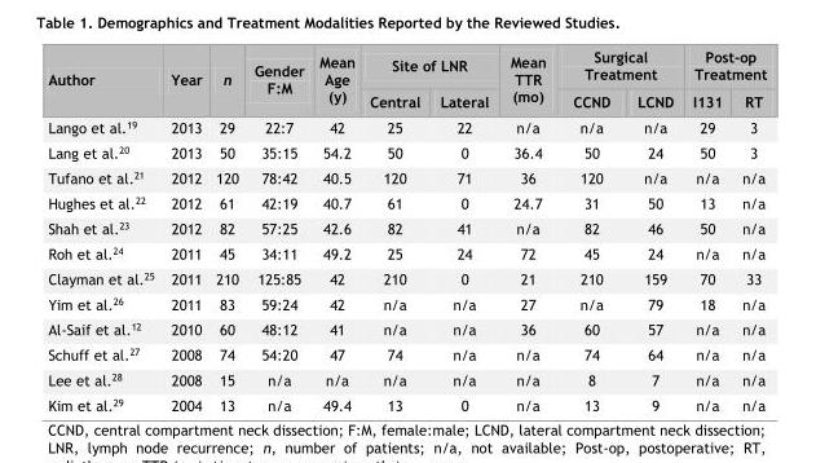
<table><thead><tr><td rowspan="2">Author</td><td rowspan="2">Year</td><td rowspan="2">n</td><td rowspan="2">Gender F:M</td><td rowspan="2">Mean Age (y)</td><td colspan="2">Site of LNR</td><td rowspan="2">Mean TTR (mo)</td><td colspan="2">Surgical Treatment</td><td colspan="2">Post-op Treatment</td></tr><tr><td>Central</td><td>Lateral</td><td>CCND</td><td>LCND</td><td>I131</td><td>RT</td></tr></thead><tbody><tr><td>Lango et al.<sup>19</sup></td><td>2013</td><td>29</td><td>22:7</td><td>42</td><td>25</td><td>22</td><td>n/a</td><td>n/a</td><td>n/a</td><td>29</td><td>3</td></tr><tr><td>Lang et al.<sup>20</sup></td><td>2013</td><td>50</td><td>35:15</td><td>54.2</td><td>50</td><td>0</td><td>36.4</td><td>50</td><td>24</td><td>50</td><td>3</td></tr><tr><td>Tufano et al.<sup>21</sup></td><td>2012</td><td>120</td><td>78:42</td><td>40.5</td><td>120</td><td>71</td><td>36</td><td>120</td><td>n/a</td><td>n/a</td><td>n/a</td></tr><tr><td>Hughes et al.<sup>22</sup></td><td>2012</td><td>61</td><td>42:19</td><td>40.7</td><td>61</td><td>0</td><td>24.7</td><td>31</td><td>50</td><td>13</td><td>n/a</td></tr><tr><td>Shah et al.<sup>23</sup></td><td>2012</td><td>82</td><td>57:25</td><td>42.6</td><td>82</td><td>41</td><td>n/a</td><td>82</td><td>46</td><td>50</td><td>n/a</td></tr><tr><td>Roh et al.<sup>24</sup></td><td>2011</td><td>45</td><td>34:11</td><td>49.2</td><td>25</td><td>24</td><td>72</td><td>45</td><td>24</td><td>n/a</td><td>n/a</td></tr><tr><td>Clayman et al.<sup>25</sup></td><td>2011</td><td>210</td><td>125:85</td><td>42</td><td>210</td><td>0</td><td>21</td><td>210</td><td>159</td><td>70</td><td>33</td></tr><tr><td>Yim et al.<sup>26</sup></td><td>2011</td><td>83</td><td>59:24</td><td>42</td><td>n/a</td><td>n/a</td><td>27</td><td>n/a</td><td>79</td><td>18</td><td>n/a</td></tr><tr><td>Al-Saif et al.<sup>12</sup></td><td>2010</td><td>60</td><td>48:12</td><td>41</td><td>n/a</td><td>n/a</td><td>36</td><td>60</td><td>57</td><td>n/a</td><td>n/a</td></tr><tr><td>Schuff et al.<sup>27</sup></td><td>2008</td><td>74</td><td>54:20</td><td>47</td><td>74</td><td>n/a</td><td>n/a</td><td>74</td><td>64</td><td>n/a</td><td>n/a</td></tr><tr><td>Lee et al.<sup>28</sup></td><td>2008</td><td>15</td><td>n/a</td><td>n/a</td><td>n/a</td><td>n/a</td><td>n/a</td><td>8</td><td>7</td><td>n/a</td><td>n/a</td></tr><tr><td>Kim et al.<sup>29</sup></td><td>2004</td><td>13</td><td>n/a</td><td>49.4</td><td>13</td><td>0</td><td>n/a</td><td>13</td><td>9</td><td>n/a</td><td>n/a</td></tr></tbody></table>